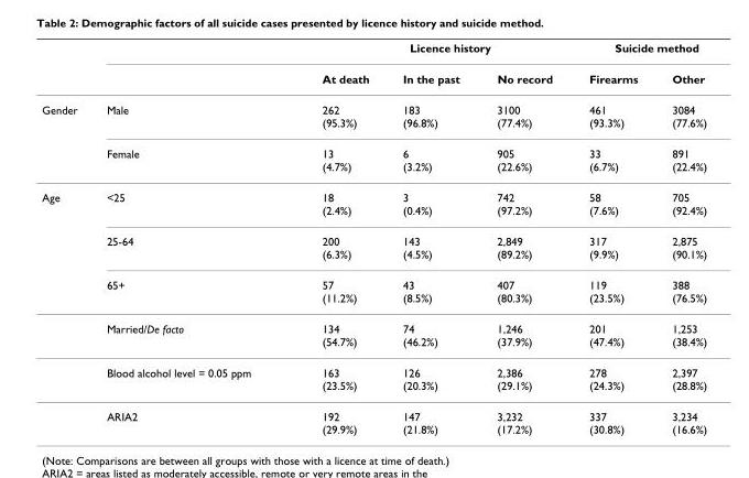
<table><thead><tr><td rowspan="2"></td><td rowspan="2"></td><td colspan="3">Licence history</td><td colspan="2">Suicide method</td></tr><tr><td>At death</td><td>In the past</td><td>No record</td><td>Firearms</td><td>Other</td></tr></thead><tbody><tr><td rowspan="2">Gender</td><td>Male</td><td>262 (95.3%)</td><td>183 (96.8%)</td><td>3100 (77.4%)</td><td>461 (93.3%)</td><td>3084 (77.6%)</td></tr><tr><td>Female</td><td>13 (4.7%)</td><td>6 (3.2%)</td><td>905 (22.6%)</td><td>33 (6.7%)</td><td>891 (22.4%)</td></tr><tr><td rowspan="6">Age</td><td>&lt;25</td><td>18 (2.4%)</td><td>3 (0.4%)</td><td>742 (97.2%)</td><td>58 (7.6%)</td><td>705 (92.4%)</td></tr><tr><td>25-64</td><td>200 (6.3%)</td><td>143 (4.5%)</td><td>2,849 (89.2%)</td><td>317 (9.9%)</td><td>2,875 (90.1%)</td></tr><tr><td>65+</td><td>57 (11.2%)</td><td>43 (8.5%)</td><td>407 (80.3%)</td><td>119 (23.5%)</td><td>388 (76.5%)</td></tr><tr><td>Married/De facto</td><td>134 (54.7%)</td><td>74 (46.2%)</td><td>1,246 (37.9%)</td><td>201 (47.4%)</td><td>1,253 (38.4%)</td></tr><tr><td>Blood alcohol level = 0.05 ppm</td><td>163 (23.5%)</td><td>126 (20.3%)</td><td>2,386 (29.1%)</td><td>278 (24.3%)</td><td>2,397 (28.8%)</td></tr><tr><td>ARIA2</td><td>192 (29.9%)</td><td>147 (21.8%)</td><td>3,232 (17.2%)</td><td>337 (30.8%)</td><td>3,234 (16.6%)</td></tr></tbody></table>